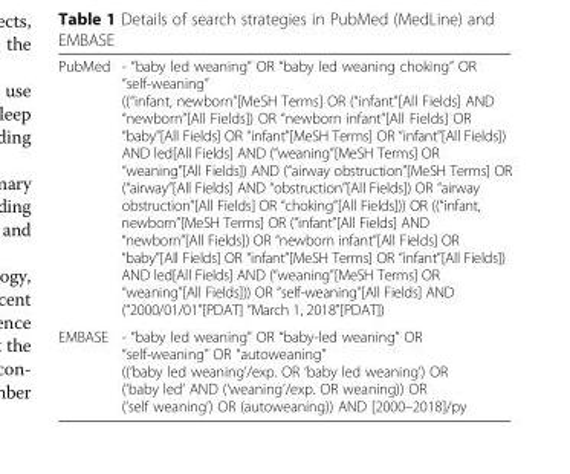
<table><tbody><tr><td>PubMed</td><td>- “baby led weaning” OR “baby led weaning choking” OR “self-weaning” ((“infant, newborn”[MeSH Terms] OR (“infant”[All Fields] AND “newborn”[All Fields]) OR “newborn infant”[All Fields] OR “baby”[All Fields] OR “infant”[MeSH Terms] OR “infant”[All Fields]) AND led[All Fields] AND (“weaning”[MeSH Terms] OR “weaning”[All Fields]) AND (“airway obstruction”[MeSH Terms] OR (“airway”[All Fields] AND “obstruction”[All Fields]) OR “airway obstruction”[All Fields] OR “choking”[All Fields])) OR ((“infant, newborn”[MeSH Terms] OR (“infant”[All Fields] AND “newborn”[All Fields]) OR “newborn infant”[All Fields] OR “baby”[All Fields] OR “infant”[MeSH Terms] OR “infant”[All Fields]) AND led[All Fields] AND (“weaning”[MeSH Terms] OR “weaning”[All Fields])) OR “self-weaning”[All Fields] AND (“2000/01/01”[PDAT] “March 1, 2018”[PDAT])</td></tr><tr><td>EMBASE</td><td>- “baby led weaning” OR “baby-led weaning” OR “self-weaning” OR “autoweaning” ((‘baby led weaning’/exp. OR ‘baby led weaning’) OR (‘baby led’ AND (‘weaning’/exp. OR weaning)) OR (‘self weaning’) OR (autoweaning)) AND [2000–2018]/py</td></tr></tbody></table>